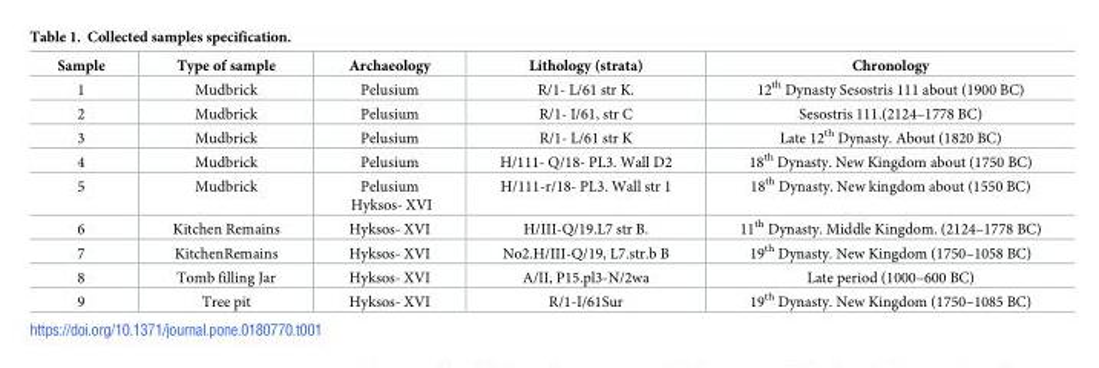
<table><thead><tr><td>Sample</td><td>Type of sample</td><td>Archaeology</td><td>Lithology (strata)</td><td>Chronology</td></tr></thead><tbody><tr><td>1</td><td>Mudbrick</td><td>Pelusium</td><td>R/1- L/61 str K.</td><td>12<sup>th</sup> Dynasty Sesostris 111 about (1900 BC)</td></tr><tr><td>2</td><td>Mudbrick</td><td>Pelusium</td><td>R/1- I/61, str C</td><td>Sesostris 111.(2124–1778 BC)</td></tr><tr><td>3</td><td>Mudbrick</td><td>Pelusium</td><td>R/1- L/61 str K</td><td>Late 12<sup>th</sup> Dynasty. About (1820 BC)</td></tr><tr><td>4</td><td>Mudbrick</td><td>Pelusium</td><td>H/111- Q/18- PL3. Wall D2</td><td>18<sup>th</sup> Dynasty. New Kingdom about (1750 BC)</td></tr><tr><td>5</td><td>Mudbrick</td><td>Pelusium Hyksos- XVI</td><td>H/111-r/18- PL3. Wall str 1</td><td>18<sup>th</sup> Dynasty. New kingdom about (1550 BC)</td></tr><tr><td>6</td><td>Kitchen Remains</td><td>Hyksos- XVI</td><td>H/III-Q/19.L7 str B.</td><td>11<sup>th</sup> Dynasty. Middle Kingdom. (2124–1778 BC)</td></tr><tr><td>7</td><td>KitchenRemains</td><td>Hyksos- XVI</td><td>No2.H/III-Q/19, L7.str.b B</td><td>19<sup>th</sup> Dynasty. New Kingdom (1750–1058 BC)</td></tr><tr><td>8</td><td>Tomb filling Jar</td><td>Hyksos- XVI</td><td>A/II, P15.pl3-N/2wa</td><td>Late period (1000–600 BC)</td></tr><tr><td>9</td><td>Tree pit</td><td>Hyksos- XVI</td><td>R/1-I/61Sur</td><td>19<sup>th</sup> Dynasty. New Kingdom (1750–1085 BC)</td></tr></tbody></table>